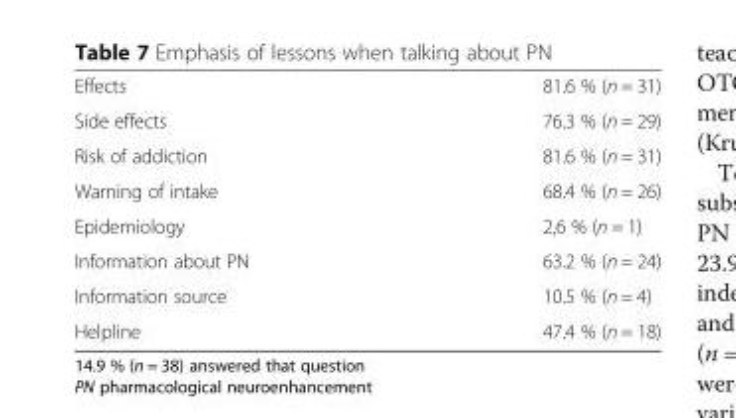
<table><tbody><tr><td>Effects</td><td>81.6 % (n = 31)</td></tr><tr><td>Side effects</td><td>76.3 % (n = 29)</td></tr><tr><td>Risk of addiction</td><td>81.6 % (n = 31)</td></tr><tr><td>Warning of intake</td><td>68.4 % (n = 26)</td></tr><tr><td>Epidemiology</td><td>2,6 % (n = 1)</td></tr><tr><td>Information about PN</td><td>63.2 % (n = 24)</td></tr><tr><td>Information source</td><td>10.5 % (n = 4)</td></tr><tr><td>Helpline</td><td>47.4 % (n = 18)</td></tr></tbody></table>